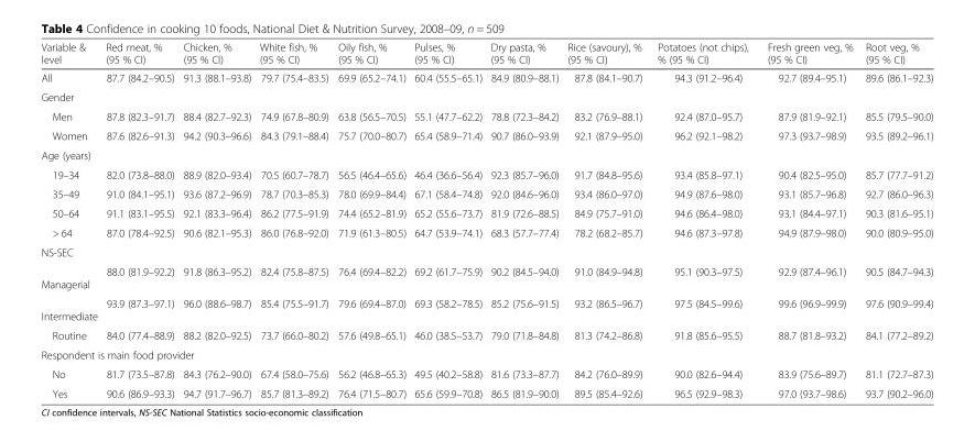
<table><thead><tr><td>Variable &amp; level</td><td>Red meat, % (95 % CI)</td><td>Chicken, % (95 % CI)</td><td>White fish, % (95 % CI)</td><td>Oily fish, % (95 % CI)</td><td>Pulses, % (95 % CI)</td><td>Dry pasta, % (95 % CI)</td><td>Rice (savoury), % (95 % CI)</td><td>Potatoes (not chips), % (95 % CI)</td><td>Fresh green veg, % (95 % CI)</td><td>Root veg, % (95 % CI)</td></tr></thead><tbody><tr><td>All</td><td>87.7 (84.2–90.5)</td><td>91.3 (88.1–93.8)</td><td>79.7 (75.4–83.5)</td><td>69.9 (65.2–74.1)</td><td>60.4 (55.5–65.1)</td><td>84.9 (80.9–88.1)</td><td>87.8 (84.1–90.7)</td><td>94.3 (91.2–96.4)</td><td>92.7 (89.4–95.1)</td><td>89.6 (86.1–92.3)</td></tr><tr><td colspan="11">Gender</td></tr><tr><td>Men</td><td>87.8 (82.3–91.7)</td><td>88.4 (82.7–92.3)</td><td>74.9 (67.8–80.9)</td><td>63.8 (56.5–70.5)</td><td>55.1 (47.7–62.2)</td><td>78.8 (72.3–84.2)</td><td>83.2 (76.9–88.1)</td><td>92.4 (87.0–95.7)</td><td>87.9 (81.9–92.1)</td><td>85.5 (79.5–90.0)</td></tr><tr><td>Women</td><td>87.6 (82.6–91.3)</td><td>94.2 (90.3–96.6)</td><td>84.3 (79.1–88.4)</td><td>75.7 (70.0–80.7)</td><td>65.4 (58.9–71.4)</td><td>90.7 (86.0–93.9)</td><td>92.1 (87.9–95.0)</td><td>96.2 (92.1–98.2)</td><td>97.3 (93.7–98.9)</td><td>93.5 (89.2–96.1)</td></tr><tr><td colspan="11">Age (years)</td></tr><tr><td>19–34</td><td>82.0 (73.8–88.0)</td><td>88.9 (82.0–93.4)</td><td>70.5 (60.7–78.7)</td><td>56.5 (46.4–65.6)</td><td>46.4 (36.6–56.4)</td><td>92.3 (85.7–96.0)</td><td>91.7 (84.8–95.6)</td><td>93.4 (85.8–97.1)</td><td>90.4 (82.5–95.0)</td><td>85.7 (77.7–91.2)</td></tr><tr><td>35–49</td><td>91.0 (84.1–95.1)</td><td>93.6 (87.2–96.9)</td><td>78.7 (70.3–85.3)</td><td>78.0 (69.9–84.4)</td><td>67.1 (58.4–74.8)</td><td>92.0 (84.6–96.0)</td><td>93.4 (86.0–97.0)</td><td>94.9 (87.6–98.0)</td><td>93.1 (85.7–96.8)</td><td>92.7 (86.0–96.3)</td></tr><tr><td>50–64</td><td>91.1 (83.1–95.5)</td><td>92.1 (83.3–96.4)</td><td>86.2 (77.5–91.9)</td><td>74.4 (65.2–81.9)</td><td>65.2 (55.6–73.7)</td><td>81.9 (72.6–88.5)</td><td>84.9 (75.7–91.0)</td><td>94.6 (86.4–98.0)</td><td>93.1 (84.4–97.1)</td><td>90.3 (81.6–95.1)</td></tr><tr><td>&gt; 64</td><td>87.0 (78.4–92.5)</td><td>90.6 (82.1–95.3)</td><td>86.0 (76.8–92.0)</td><td>71.9 (61.3–80.5)</td><td>64.7 (53.9–74.1)</td><td>68.3 (57.7–77.4)</td><td>78.2 (68.2–85.7)</td><td>94.6 (87.3–97.8)</td><td>94.9 (87.9–98.0)</td><td>90.0 (80.9–95.0)</td></tr><tr><td colspan="11">NS-SEC</td></tr><tr><td>Managerial</td><td>88.0 (81.9–92.2)</td><td>91.8 (86.3–95.2)</td><td>82.4 (75.8–87.5)</td><td>76.4 (69.4–82.2)</td><td>69.2 (61.7–75.9)</td><td>90.2 (84.5–94.0)</td><td>91.0 (84.9–94.8)</td><td>95.1 (90.3–97.5)</td><td>92.9 (87.4–96.1)</td><td>90.5 (84.7–94.3)</td></tr><tr><td>Intermediate</td><td>93.9 (87.3–97.1)</td><td>96.0 (88.6–98.7)</td><td>85.4 (75.5–91.7)</td><td>79.6 (69.4–87.0)</td><td>69.3 (58.2–78.5)</td><td>85.2 (75.6–91.5)</td><td>93.2 (86.5–96.7)</td><td>97.5 (84.5–99.6)</td><td>99.6 (96.9–99.9)</td><td>97.6 (90.9–99.4)</td></tr><tr><td>Routine</td><td>84.0 (77.4–88.9)</td><td>88.2 (82.0–92.5)</td><td>73.7 (66.0–80.2)</td><td>57.6 (49.8–65.1)</td><td>46.0 (38.5–53.7)</td><td>79.0 (71.8–84.8)</td><td>81.3 (74.2–86.8)</td><td>91.8 (85.6–95.5)</td><td>88.7 (81.8–93.2)</td><td>84.1 (77.2–89.2)</td></tr><tr><td colspan="11">Respondent is main food provider</td></tr><tr><td>No</td><td>81.7 (73.5–87.8)</td><td>84.3 (76.2–90.0)</td><td>67.4 (58.0–75.6)</td><td>56.2 (46.8–65.3)</td><td>49.5 (40.2–58.8)</td><td>81.6 (73.3–87.7)</td><td>84.2 (76.0–89.9)</td><td>90.0 (82.6–94.4)</td><td>83.9 (75.6–89.7)</td><td>81.1 (72.7–87.3)</td></tr><tr><td>Yes</td><td>90.6 (86.9–93.3)</td><td>94.7 (91.7–96.7)</td><td>85.7 (81.3–89.2)</td><td>76.4 (71.5–80.7)</td><td>65.6 (59.9–70.8)</td><td>86.5 (81.9–90.0)</td><td>89.5 (85.4–92.6)</td><td>96.5 (92.9–98.3)</td><td>97.0 (93.7–98.6)</td><td>93.7 (90.2–96.0)</td></tr></tbody></table>